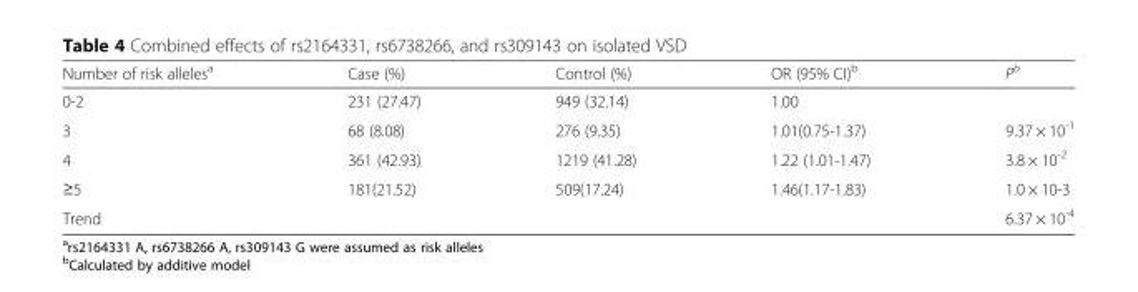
<table><thead><tr><td>Number of risk alleles<sup>a</sup></td><td>Case (%)</td><td>Control (%)</td><td>OR (95% CI)<sup>b</sup></td><td>P<sup>b</sup></td></tr></thead><tbody><tr><td>0-2</td><td>231 (27.47)</td><td>949 (32.14)</td><td>1.00</td><td></td></tr><tr><td>3</td><td>68 (8.08)</td><td>276 (9.35)</td><td>1.01(0.75-1.37)</td><td>9.37 × 10<sup>-1</sup></td></tr><tr><td>4</td><td>361 (42.93)</td><td>1219 (41.28)</td><td>1.22 (1.01-1.47)</td><td>3.8 × 10<sup>-2</sup></td></tr><tr><td>≥5</td><td>181(21.52)</td><td>509(17.24)</td><td>1.46(1.17-1.83)</td><td>1.0 × 10-3</td></tr><tr><td>Trend</td><td></td><td></td><td></td><td>6.37 × 10<sup>-4</sup></td></tr></tbody></table>